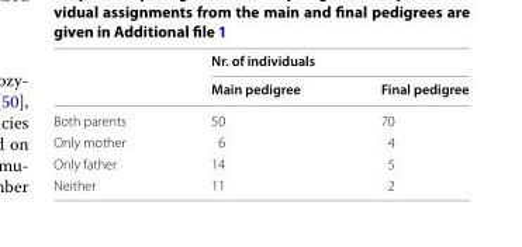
<table><thead><tr><td rowspan="2"></td><td colspan="2">Nr. of individuals</td></tr><tr><td>Main pedigree</td><td>Final pedigree</td></tr></thead><tbody><tr><td>Both parents</td><td>50</td><td>70</td></tr><tr><td>Only mother</td><td>6</td><td>4</td></tr><tr><td>Only father</td><td>14</td><td>5</td></tr><tr><td>Neither</td><td>11</td><td>2</td></tr></tbody></table>